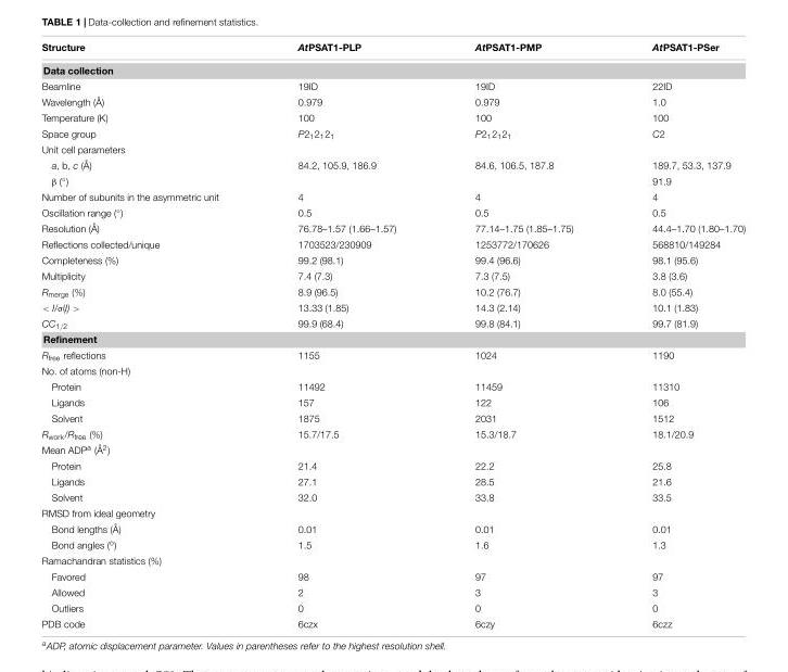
<table><thead><tr><td>Structure</td><td>AtPSAT1-PLP</td><td>AtPSAT1-PMP</td><td>AtPSAT1-PSer</td></tr></thead><tbody><tr><td colspan="4">Data collection</td></tr><tr><td>Beamline</td><td>19ID</td><td>19ID</td><td>22ID</td></tr><tr><td>Wavelength (Å)</td><td>0.979</td><td>0.979</td><td>1.0</td></tr><tr><td>Temperature (K)</td><td>100</td><td>100</td><td>100</td></tr><tr><td>Space group</td><td>P2<sub>1</sub>2<sub>1</sub>2<sub>1</sub></td><td>P2<sub>1</sub>2<sub>1</sub>2<sub>1</sub></td><td>C2</td></tr><tr><td colspan="4">Unit cell parameters</td></tr><tr><td>a, b, c (Å)</td><td>84.2, 105.9, 186.9</td><td>84.6, 106.5, 187.8</td><td>189.7, 53.3, 137.9</td></tr><tr><td>β (◦)</td><td></td><td></td><td>91.9</td></tr><tr><td>Number of subunits in the asymmetric unit</td><td>4</td><td>4</td><td>4</td></tr><tr><td>Oscillation range (◦)</td><td>0.5</td><td>0.5</td><td>0.5</td></tr><tr><td>Resolution (Å)</td><td>76.78–1.57 (1.66–1.57)</td><td>77.14–1.75 (1.85–1.75)</td><td>44.4–1.70 (1.80–1.70)</td></tr><tr><td>Reflections collected/unique</td><td>1703523/230909</td><td>1253772/170626</td><td>568810/149284</td></tr><tr><td>Completeness (%)</td><td>99.2 (98.1)</td><td>99.4 (96.6)</td><td>98.1 (95.6)</td></tr><tr><td>Multiplicity</td><td>7.4 (7.3)</td><td>7.3 (7.5)</td><td>3.8 (3.6)</td></tr><tr><td>R<sub>merge</sub> (%)</td><td>8.9 (96.5)</td><td>10.2 (76.7)</td><td>8.0 (55.4)</td></tr><tr><td>&lt; I/σ(I) &gt;</td><td>13.33 (1.85)</td><td>14.3 (2.14)</td><td>10.1 (1.83)</td></tr><tr><td>CC<sub>1/2</sub></td><td>99.9 (68.4)</td><td>99.8 (84.1)</td><td>99.7 (81.9)</td></tr><tr><td colspan="4">Refinement</td></tr><tr><td>R<sub>free</sub> reflections</td><td>1155</td><td>1024</td><td>1190</td></tr><tr><td colspan="4">No. of atoms (non-H)</td></tr><tr><td>Protein</td><td>11492</td><td>11459</td><td>11310</td></tr><tr><td>Ligands</td><td>157</td><td>122</td><td>106</td></tr><tr><td>Solvent</td><td>1875</td><td>2031</td><td>1512</td></tr><tr><td>R<sub>work</sub>/R<sub>free</sub> (%)</td><td>15.7/17.5</td><td>15.3/18.7</td><td>18.1/20.9</td></tr><tr><td colspan="4">Mean ADP<sup>a</sup> (Å<sup>2</sup>)</td></tr><tr><td>Protein</td><td>21.4</td><td>22.2</td><td>25.8</td></tr><tr><td>Ligands</td><td>27.1</td><td>28.5</td><td>21.6</td></tr><tr><td>Solvent</td><td>32.0</td><td>33.8</td><td>33.5</td></tr><tr><td colspan="4">RMSD from ideal geometry</td></tr><tr><td>Bond lengths (Å)</td><td>0.01</td><td>0.01</td><td>0.01</td></tr><tr><td>Bond angles (<sup>o</sup>)</td><td>1.5</td><td>1.6</td><td>1.3</td></tr><tr><td colspan="4">Ramachandran statistics (%)</td></tr><tr><td>Favored</td><td>98</td><td>97</td><td>97</td></tr><tr><td>Allowed</td><td>2</td><td>3</td><td>3</td></tr><tr><td>Outliers</td><td>0</td><td>0</td><td>0</td></tr><tr><td>PDB code</td><td>6czx</td><td>6czy</td><td>6czz</td></tr></tbody></table>